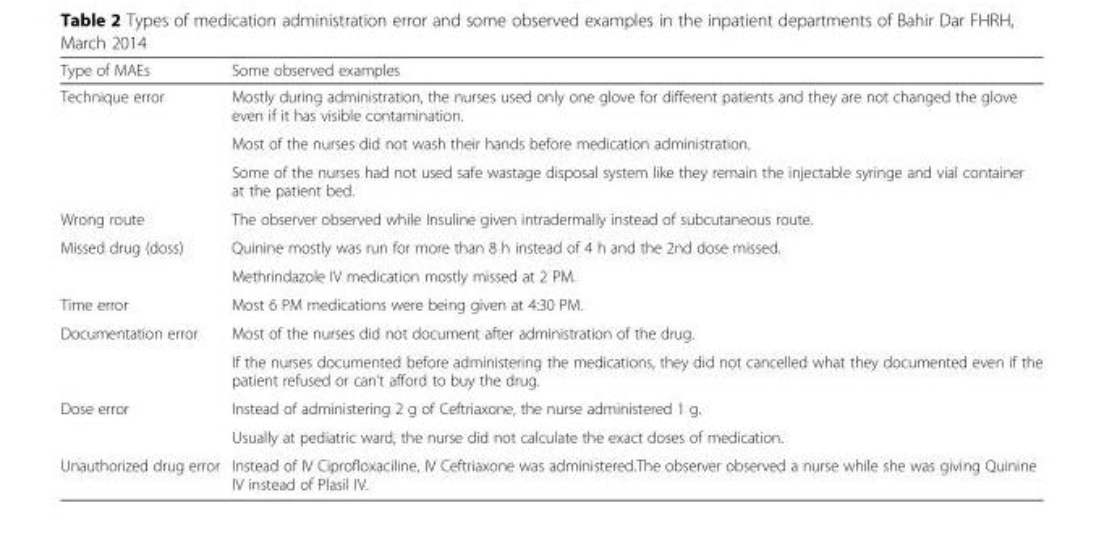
<table><thead><tr><td>Type of MAEs</td><td>Some observed examples</td></tr></thead><tbody><tr><td rowspan="3">Technique error</td><td>Mostly during administration, the nurses used only one glove for different patients and they are not changed the glove even if it has visible contamination.</td></tr><tr><td>Most of the nurses did not wash their hands before medication administration.</td></tr><tr><td>Some of the nurses had not used safe wastage disposal system like they remain the injectable syringe and vial container at the patient bed.</td></tr><tr><td>Wrong route</td><td>The observer observed while Insuline given intradermally instead of subcutaneous route.</td></tr><tr><td rowspan="2">Missed drug (doss)</td><td>Quinine mostly was run for more than 8 h instead of 4 h and the 2nd dose missed.</td></tr><tr><td>Methrindazole IV medication mostly missed at 2 PM.</td></tr><tr><td>Time error</td><td>Most 6 PM medications were being given at 4:30 PM.</td></tr><tr><td rowspan="2">Documentation error</td><td>Most of the nurses did not document after administration of the drug.</td></tr><tr><td>If the nurses documented before administering the medications, they did not cancelled what they documented even if the patient refused or can’t afford to buy the drug.</td></tr><tr><td rowspan="2">Dose error</td><td>Instead of administering 2 g of Ceftriaxone, the nurse administered 1 g.</td></tr><tr><td>Usually at pediatric ward, the nurse did not calculate the exact doses of medication.</td></tr><tr><td>Unauthorized drug error</td><td>Instead of IV Ciprofloxaciline, IV Ceftriaxone was administered.The observer observed a nurse while she was giving Quinine IV instead of Plasil IV.</td></tr></tbody></table>